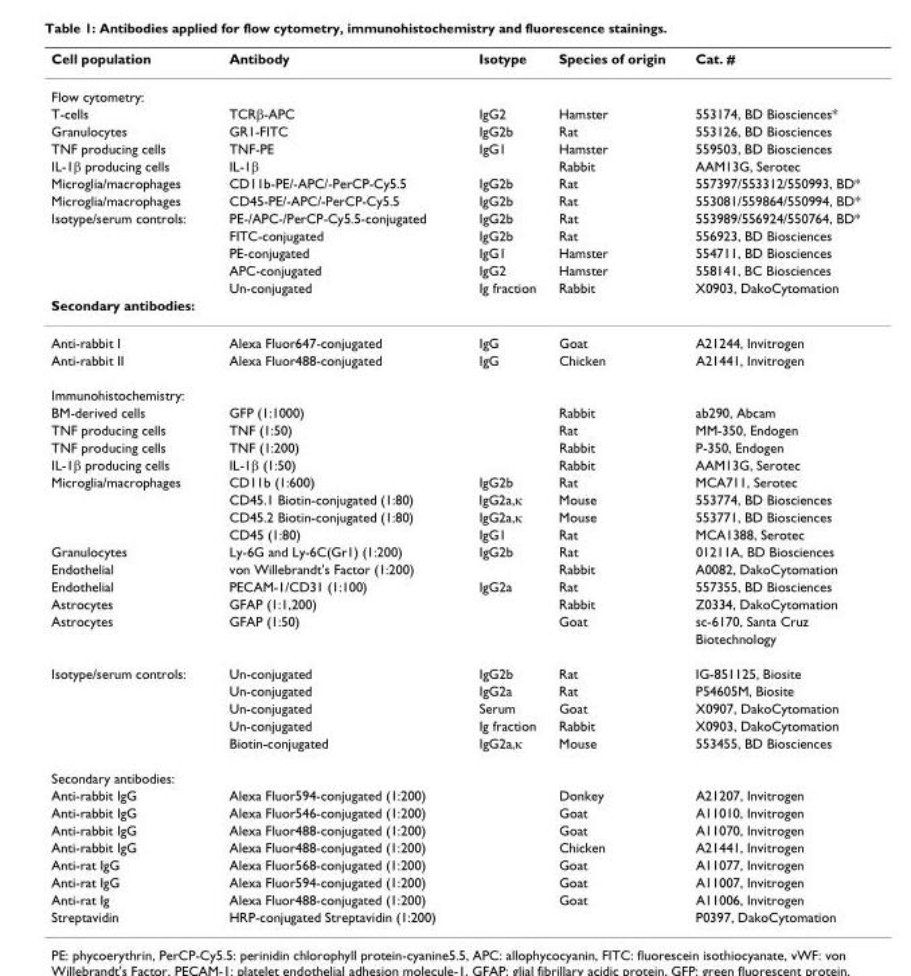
<table><thead><tr><td>Cell population</td><td>Antibody</td><td>Isotype</td><td>Species of origin</td><td>Cat. #</td></tr></thead><tbody><tr><td colspan="5">Flow cytometry:</td></tr><tr><td>T-cells</td><td>TCRβ-APC</td><td>IgG2</td><td>Hamster</td><td>553174, BD Biosciences*</td></tr><tr><td>Granulocytes</td><td>GR1-FITC</td><td>IgG2b</td><td>Rat</td><td>553126, BD Biosciences</td></tr><tr><td>TNF producing cells</td><td>TNF-PE</td><td>IgG1</td><td>Hamster</td><td>559503, BD Biosciences</td></tr><tr><td>IL-1β producing cells</td><td>IL-1β</td><td></td><td>Rabbit</td><td>AAM13G, Serotec</td></tr><tr><td>Microglia/macrophages</td><td>CD11b-PE/-APC/-PerCP-Cy5.5</td><td>IgG2b</td><td>Rat</td><td>557397/553312/550993, BD*</td></tr><tr><td>Microglia/macrophages</td><td>CD45-PE/-APC/-PerCP-Cy5.5</td><td>IgG2b</td><td>Rat</td><td>553081/559864/550994, BD*</td></tr><tr><td rowspan="5">Isotype/serum controls:</td><td>PE-/APC-/PerCP-Cy5.5-conjugated</td><td>IgG2b</td><td>Rat</td><td>553989/556924/550764, BD*</td></tr><tr><td>FITC-conjugated</td><td>IgG2b</td><td>Rat</td><td>556923, BD Biosciences</td></tr><tr><td>PE-conjugated</td><td>IgG1</td><td>Hamster</td><td>554711, BD Biosciences</td></tr><tr><td>APC-conjugated</td><td>IgG2</td><td>Hamster</td><td>558141, BC Biosciences</td></tr><tr><td>Un-conjugated</td><td>Ig fraction</td><td>Rabbit</td><td>X0903, DakoCytomation</td></tr><tr><td colspan="5">Secondary antibodies:</td></tr><tr><td>Anti-rabbit I</td><td>Alexa Fluor647-conjugated</td><td>IgG</td><td>Goat</td><td>A21244, Invitrogen</td></tr><tr><td>Anti-rabbit II</td><td>Alexa Fluor488-conjugated</td><td>IgG</td><td>Chicken</td><td>A21441, Invitrogen</td></tr><tr><td colspan="5">Immunohistochemistry:</td></tr><tr><td>BM-derived cells</td><td>GFP (1:1000)</td><td></td><td>Rabbit</td><td>ab290, Abcam</td></tr><tr><td>TNF producing cells</td><td>TNF (1:50)</td><td></td><td>Rat</td><td>MM-350, Endogen</td></tr><tr><td>TNF producing cells</td><td>TNF (1:200)</td><td></td><td>Rabbit</td><td>P-350, Endogen</td></tr><tr><td>IL-1β producing cells</td><td>IL-1β (1:50)</td><td></td><td>Rabbit</td><td>AAM13G, Serotec</td></tr><tr><td rowspan="4">Microglia/macrophages</td><td>CD11b (1:600)</td><td>IgG2b</td><td>Rat</td><td>MCA711, Serotec</td></tr><tr><td>CD45.1 Biotin-conjugated (1:80)</td><td>IgG2a,κ</td><td>Mouse</td><td>553774, BD Biosciences</td></tr><tr><td>CD45.2 Biotin-conjugated (1:80)</td><td>IgG2a,κ</td><td>Mouse</td><td>553771, BD Biosciences</td></tr><tr><td>CD45 (1:80)</td><td>IgG1</td><td>Rat</td><td>MCA1388, Serotec</td></tr><tr><td>Granulocytes</td><td>Ly-6G and Ly-6C(Gr1) (1:200)</td><td>IgG2b</td><td>Rat</td><td>01211A, BD Biosciences</td></tr><tr><td>Endothelial</td><td>von Willebrandt&#x27;s Factor (1:200)</td><td></td><td>Rabbit</td><td>A0082, DakoCytomation</td></tr><tr><td>Endothelial</td><td>PECAM-1/CD31 (1:100)</td><td>IgG2a</td><td>Rat</td><td>557355, BD Biosciences</td></tr><tr><td>Astrocytes</td><td>GFAP (1:1,200)</td><td></td><td>Rabbit</td><td>Z0334, DakoCytomation</td></tr><tr><td rowspan="2">Astrocytes</td><td>GFAP (1:50)</td><td></td><td>Goat</td><td>sc-6170, Santa Cruz</td></tr><tr><td></td><td></td><td></td><td>Biotechnology</td></tr><tr><td rowspan="5">Isotype/serum controls:</td><td>Un-conjugated</td><td>IgG2b</td><td>Rat</td><td>IG-851125, Biosite</td></tr><tr><td>Un-conjugated</td><td>IgG2a</td><td>Rat</td><td>P54605M, Biosite</td></tr><tr><td>Un-conjugated</td><td>Serum</td><td>Goat</td><td>X0907, DakoCytomation</td></tr><tr><td>Un-conjugated</td><td>Ig fraction</td><td>Rabbit</td><td>X0903, DakoCytomation</td></tr><tr><td>Biotin-conjugated</td><td>IgG2a,κ</td><td>Mouse</td><td>553455, BD Biosciences</td></tr><tr><td colspan="5">Secondary antibodies:</td></tr><tr><td>Anti-rabbit IgG</td><td>Alexa Fluor594-conjugated (1:200)</td><td></td><td>Donkey</td><td>A21207, Invitrogen</td></tr><tr><td>Anti-rabbit IgG</td><td>Alexa Fluor546-conjugated (1:200)</td><td></td><td>Goat</td><td>A11010, Invitrogen</td></tr><tr><td>Anti-rabbit IgG</td><td>Alexa Fluor488-conjugated (1:200)</td><td></td><td>Goat</td><td>A11070, Invitrogen</td></tr><tr><td>Anti-rabbit IgG</td><td>Alexa Fluor488-conjugated (1:200)</td><td></td><td>Chicken</td><td>A21441, Invitrogen</td></tr><tr><td>Anti-rat IgG</td><td>Alexa Fluor568-conjugated (1:200)</td><td></td><td>Goat</td><td>A11077, Invitrogen</td></tr><tr><td>Anti-rat IgG</td><td>Alexa Fluor594-conjugated (1:200)</td><td></td><td>Goat</td><td>A11007, Invitrogen</td></tr><tr><td>Anti-rat Ig</td><td>Alexa Fluor488-conjugated (1:200)</td><td></td><td>Goat</td><td>A11006, Invitrogen</td></tr><tr><td>Streptavidin</td><td>HRP-conjugated Streptavidin (1:200)</td><td></td><td></td><td>P0397, DakoCytomation</td></tr></tbody></table>